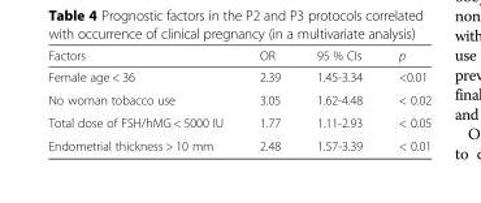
<table><thead><tr><td>Factors</td><td>OR</td><td>95 % CIs</td><td>p</td></tr></thead><tbody><tr><td>Female age &lt; 36</td><td>2.39</td><td>1.45-3.34</td><td>&lt;0.01</td></tr><tr><td>No woman tobacco use</td><td>3.05</td><td>1.62-4.48</td><td>&lt; 0.02</td></tr><tr><td>Total dose of FSH/hMG &lt; 5000 IU</td><td>1.77</td><td>1.11-2.93</td><td>&lt; 0.05</td></tr><tr><td>Endometrial thickness &gt; 10 mm</td><td>2.48</td><td>1.57-3.39</td><td>&lt; 0.01</td></tr></tbody></table>